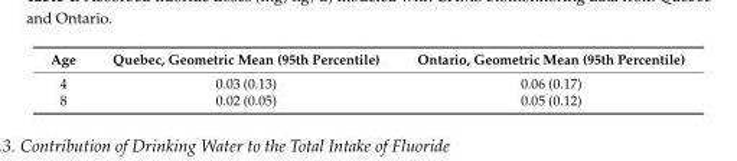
<table><thead><tr><td>Age</td><td>Quebec, Geometric Mean (95th Percentile)</td><td>Ontario, Geometric Mean (95th Percentile)</td></tr></thead><tbody><tr><td>4</td><td>0.03 (0.13)</td><td>0.06 (0.17)</td></tr><tr><td>8</td><td>0.02 (0.05)</td><td>0.05 (0.12)</td></tr></tbody></table>